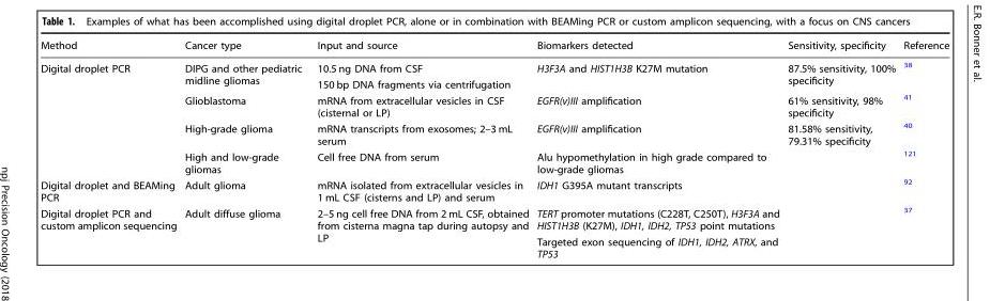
<table><thead><tr><td>Method</td><td>Cancer type</td><td>Input and source</td><td>Biomarkers detected</td><td>Sensitivity, specificity</td><td>Reference</td></tr></thead><tbody><tr><td rowspan="5">Digital droplet PCR</td><td rowspan="2">DIPG and other pediatric midline gliomas</td><td>10.5 ng DNA from CSF</td><td rowspan="2">H3F3A and HIST1H3B K27M mutation</td><td rowspan="2">87.5% sensitivity, 100% specificity</td><td><sup>38</sup></td></tr><tr><td>150 bp DNA fragments via centrifugation</td><td></td></tr><tr><td>Glioblastoma</td><td>mRNA from extracellular vesicles in CSF (cisternal or LP)</td><td>EGFR(v)III amplification</td><td>61% sensitivity, 98% specificity</td><td><sup>41</sup></td></tr><tr><td>High-grade glioma</td><td>mRNA transcripts from exosomes; 2–3 mL serum</td><td>EGFR(v)III amplification</td><td>81.58% sensitivity, 79.31% specificity</td><td><sup>40</sup></td></tr><tr><td>High and low-grade gliomas</td><td>Cell free DNA from serum</td><td>Alu hypomethylation in high grade compared to low-grade gliomas</td><td></td><td><sup>121</sup></td></tr><tr><td>Digital droplet and BEAMing PCR</td><td>Adult glioma</td><td>mRNA isolated from extracellular vesicles in 1 mL CSF (cisterns and LP) and serum</td><td>IDH1 G395A mutant transcripts</td><td></td><td><sup>92</sup></td></tr><tr><td rowspan="2">Digital droplet PCR and custom amplicon sequencing</td><td rowspan="2">Adult diffuse glioma</td><td rowspan="2">2–5 ng cell free DNA from 2 mL CSF, obtained from cisterna magna tap during autopsy and LP</td><td>TERT promoter mutations (C228T, C250T), H3F3A and HIST1H3B (K27M), IDH1, IDH2, TP53 point mutations</td><td rowspan="2"></td><td rowspan="2"><sup>37</sup></td></tr><tr><td>Targeted exon sequencing of IDH1, IDH2, ATRX, and TP53</td></tr></tbody></table>